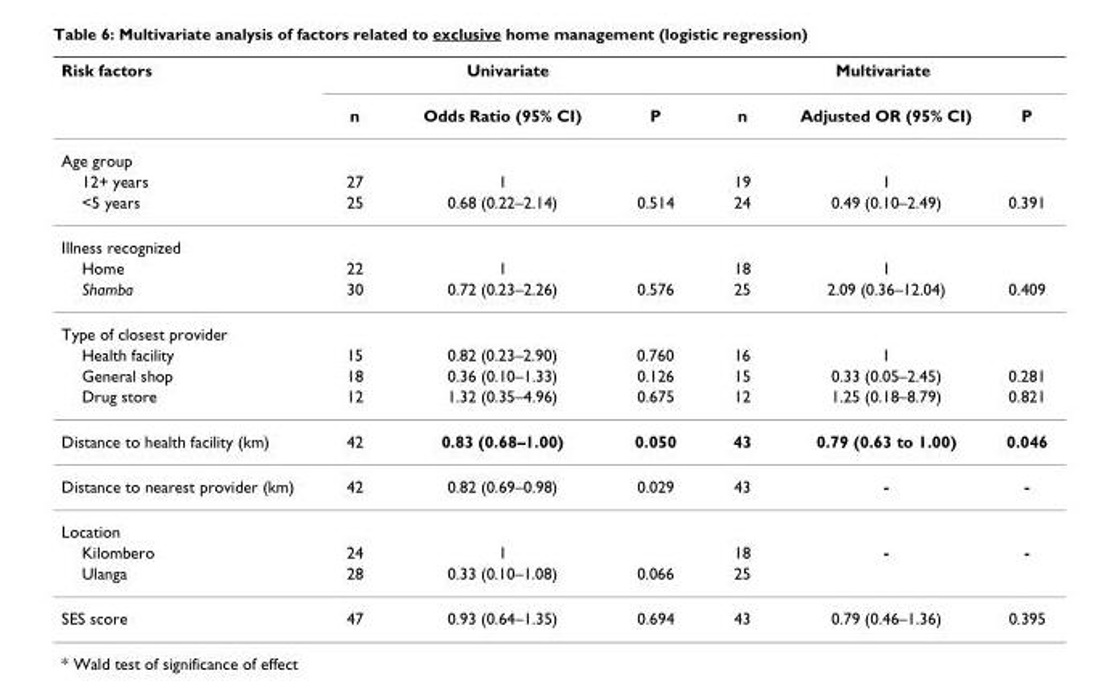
<table><thead><tr><td rowspan="2">Risk factors</td><td colspan="3">Univariate</td><td colspan="3">Multivariate</td></tr><tr><td>n</td><td>Odds Ratio (95% CI)</td><td>P</td><td>n</td><td>Adjusted OR (95% CI)</td><td>P</td></tr></thead><tbody><tr><td colspan="7">Age group</td></tr><tr><td>12+ years</td><td>27</td><td>1</td><td></td><td>19</td><td>1</td><td></td></tr><tr><td>&lt;5 years</td><td>25</td><td>0.68 (0.22–2.14)</td><td>0.514</td><td>24</td><td>0.49 (0.10–2.49)</td><td>0.391</td></tr><tr><td colspan="7">Illness recognized</td></tr><tr><td>Home</td><td>22</td><td>1</td><td></td><td>18</td><td>1</td><td></td></tr><tr><td>Shamba</td><td>30</td><td>0.72 (0.23–2.26)</td><td>0.576</td><td>25</td><td>2.09 (0.36–12.04)</td><td>0.409</td></tr><tr><td colspan="7">Type of closest provider</td></tr><tr><td>Health facility</td><td>15</td><td>0.82 (0.23–2.90)</td><td>0.760</td><td>16</td><td>1</td><td></td></tr><tr><td>General shop</td><td>18</td><td>0.36 (0.10–1.33)</td><td>0.126</td><td>15</td><td>0.33 (0.05–2.45)</td><td>0.281</td></tr><tr><td>Drug store</td><td>12</td><td>1.32 (0.35–4.96)</td><td>0.675</td><td>12</td><td>1.25 (0.18–8.79)</td><td>0.821</td></tr><tr><td>Distance to health facility (km)</td><td>42</td><td>0.83 (0.68–1.00)</td><td>0.050</td><td>43</td><td>0.79 (0.63 to 1.00)</td><td>0.046</td></tr><tr><td>Distance to nearest provider (km)</td><td>42</td><td>0.82 (0.69–0.98)</td><td>0.029</td><td>43</td><td>-</td><td>-</td></tr><tr><td colspan="7">Location</td></tr><tr><td>Kilombero</td><td>24</td><td>1</td><td></td><td>18</td><td>-</td><td>-</td></tr><tr><td>Ulanga</td><td>28</td><td>0.33 (0.10–1.08)</td><td>0.066</td><td>25</td><td></td><td></td></tr><tr><td>SES score</td><td>47</td><td>0.93 (0.64–1.35)</td><td>0.694</td><td>43</td><td>0.79 (0.46–1.36)</td><td>0.395</td></tr></tbody></table>